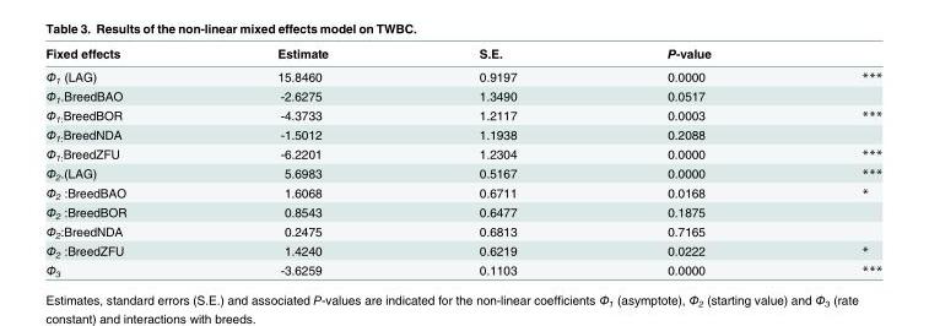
<table><thead><tr><td>Fixed effects</td><td>Estimate</td><td>S.E.</td><td>P-value</td><td></td></tr></thead><tbody><tr><td>Ф<sub>1</sub> (LAG)</td><td>15.8460</td><td>0.9197</td><td>0.0000</td><td>***</td></tr><tr><td>Ф<sub>1</sub>.BreedBAO</td><td>-2.6275</td><td>1.3490</td><td>0.0517</td><td></td></tr><tr><td>Ф<sub>1:</sub>BreedBOR</td><td>-4.3733</td><td>1.2117</td><td>0.0003</td><td>***</td></tr><tr><td>Ф<sub>1:</sub>BreedNDA</td><td>-1.5012</td><td>1.1938</td><td>0.2088</td><td></td></tr><tr><td>Ф<sub>1:</sub>BreedZFU</td><td>-6.2201</td><td>1.2304</td><td>0.0000</td><td>***</td></tr><tr><td>Ф<sub>2</sub>.(LAG)</td><td>5.6983</td><td>0.5167</td><td>0.0000</td><td>***</td></tr><tr><td>Ф<sub>2</sub> :BreedBAO</td><td>1.6068</td><td>0.6711</td><td>0.0168</td><td>*</td></tr><tr><td>Ф<sub>2</sub> :BreedBOR</td><td>0.8543</td><td>0.6477</td><td>0.1875</td><td></td></tr><tr><td>Ф<sub>2</sub>:BreedNDA</td><td>0.2475</td><td>0.6813</td><td>0.7165</td><td></td></tr><tr><td>Ф<sub>2</sub> :BreedZFU</td><td>1.4240</td><td>0.6219</td><td>0.0222</td><td>*</td></tr><tr><td>Ф<sub>3</sub></td><td>-3.6259</td><td>0.1103</td><td>0.0000</td><td>***</td></tr></tbody></table>